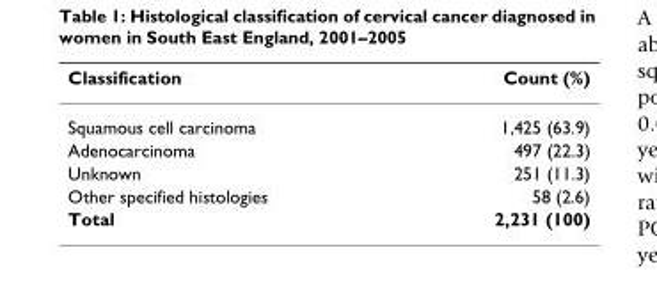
<table><thead><tr><td>Classification</td><td>Count (%)</td></tr></thead><tbody><tr><td>Squamous cell carcinoma</td><td>1,425 (63.9)</td></tr><tr><td>Adenocarcinoma</td><td>497 (22.3)</td></tr><tr><td>Unknown</td><td>251 (11.3)</td></tr><tr><td>Other specified histologies</td><td>58 (2.6)</td></tr><tr><td>Total</td><td>2,231 (100)</td></tr></tbody></table>